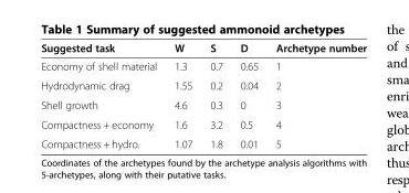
<table><thead><tr><td>Suggested task</td><td>W</td><td>S</td><td>D</td><td>Archetype number</td></tr></thead><tbody><tr><td>Economy of shell material</td><td>1.3</td><td>0.7</td><td>0.65</td><td>1</td></tr><tr><td>Hydrodynamic drag</td><td>1.55</td><td>0.2</td><td>0.04</td><td>2</td></tr><tr><td>Shell growth</td><td>4.6</td><td>0.3</td><td>0</td><td>3</td></tr><tr><td>Compactness + economy</td><td>1.6</td><td>3.2</td><td>0.5</td><td>4</td></tr><tr><td>Compactness + hydro.</td><td>1.07</td><td>1.8</td><td>0.01</td><td>5</td></tr></tbody></table>